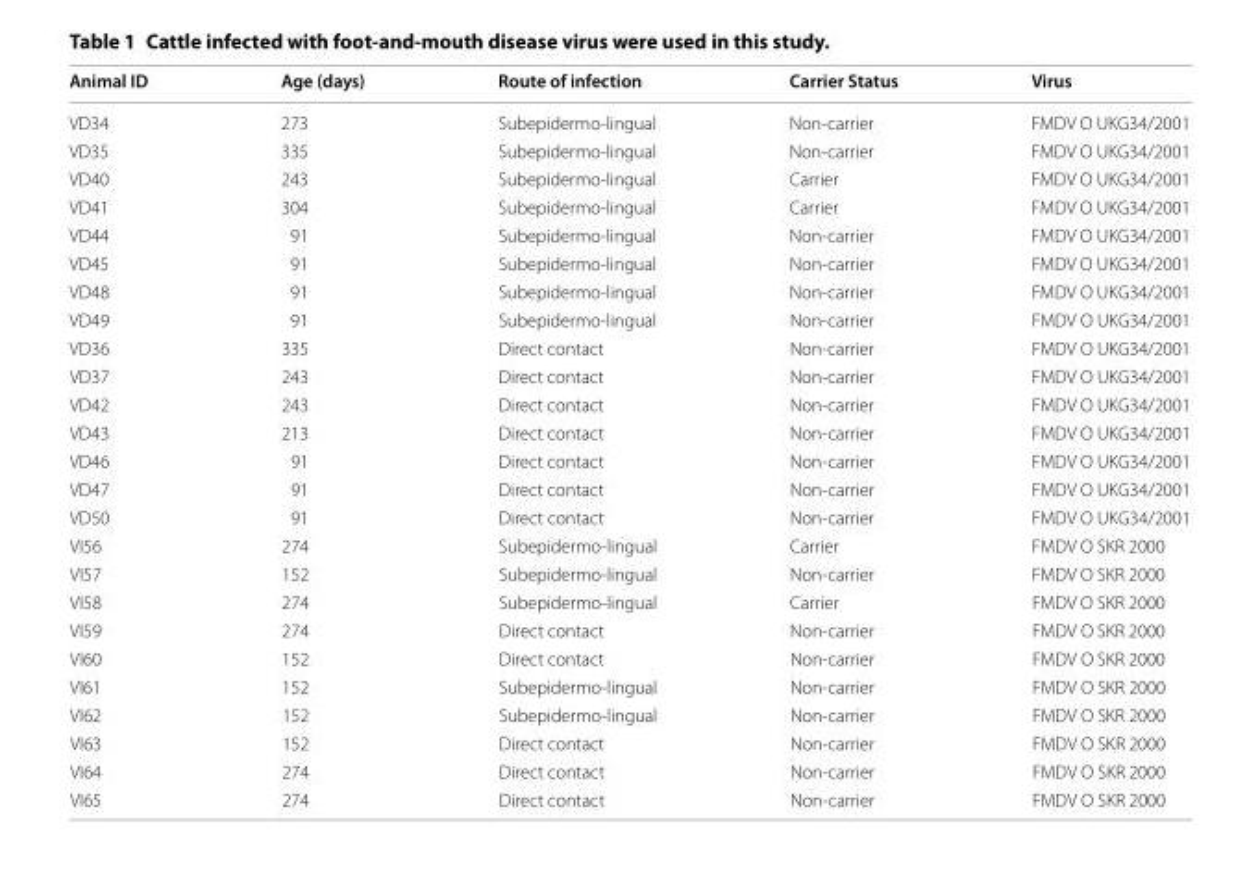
<table><thead><tr><td>Animal ID</td><td>Age (days)</td><td>Route of infection</td><td>Carrier Status</td><td>Virus</td></tr></thead><tbody><tr><td>VD34</td><td>273</td><td>Subepidermo-lingual</td><td>Non-carrier</td><td>FMDV O UKG34/2001</td></tr><tr><td>VD35</td><td>335</td><td>Subepidermo-lingual</td><td>Non-carrier</td><td>FMDV O UKG34/2001</td></tr><tr><td>VD40</td><td>243</td><td>Subepidermo-lingual</td><td>Carrier</td><td>FMDV O UKG34/2001</td></tr><tr><td>VD41</td><td>304</td><td>Subepidermo-lingual</td><td>Carrier</td><td>FMDV O UKG34/2001</td></tr><tr><td>VD44</td><td>91</td><td>Subepidermo-lingual</td><td>Non-carrier</td><td>FMDV O UKG34/2001</td></tr><tr><td>VD45</td><td>91</td><td>Subepidermo-lingual</td><td>Non-carrier</td><td>FMDV O UKG34/2001</td></tr><tr><td>VD48</td><td>91</td><td>Subepidermo-lingual</td><td>Non-carrier</td><td>FMDV O UKG34/2001</td></tr><tr><td>VD49</td><td>91</td><td>Subepidermo-lingual</td><td>Non-carrier</td><td>FMDV O UKG34/2001</td></tr><tr><td>VD36</td><td>335</td><td>Direct contact</td><td>Non-carrier</td><td>FMDV O UKG34/2001</td></tr><tr><td>VD37</td><td>243</td><td>Direct contact</td><td>Non-carrier</td><td>FMDV O UKG34/2001</td></tr><tr><td>VD42</td><td>243</td><td>Direct contact</td><td>Non-carrier</td><td>FMDV O UKG34/2001</td></tr><tr><td>VD43</td><td>213</td><td>Direct contact</td><td>Non-carrier</td><td>FMDV O UKG34/2001</td></tr><tr><td>VD46</td><td>91</td><td>Direct contact</td><td>Non-carrier</td><td>FMDV O UKG34/2001</td></tr><tr><td>VD47</td><td>91</td><td>Direct contact</td><td>Non-carrier</td><td>FMDV O UKG34/2001</td></tr><tr><td>VD50</td><td>91</td><td>Direct contact</td><td>Non-carrier</td><td>FMDV O UKG34/2001</td></tr><tr><td>VI56</td><td>274</td><td>Subepidermo-lingual</td><td>Carrier</td><td>FMDV O SKR 2000</td></tr><tr><td>VI57</td><td>152</td><td>Subepidermo-lingual</td><td>Non-carrier</td><td>FMDV O SKR 2000</td></tr><tr><td>VI58</td><td>274</td><td>Subepidermo-lingual</td><td>Carrier</td><td>FMDV O SKR 2000</td></tr><tr><td>VI59</td><td>274</td><td>Direct contact</td><td>Non-carrier</td><td>FMDV O SKR 2000</td></tr><tr><td>VI60</td><td>152</td><td>Direct contact</td><td>Non-carrier</td><td>FMDV O SKR 2000</td></tr><tr><td>VI61</td><td>152</td><td>Subepidermo-lingual</td><td>Non-carrier</td><td>FMDV O SKR 2000</td></tr><tr><td>VI62</td><td>152</td><td>Subepidermo-lingual</td><td>Non-carrier</td><td>FMDV O SKR 2000</td></tr><tr><td>VI63</td><td>152</td><td>Direct contact</td><td>Non-carrier</td><td>FMDV O SKR 2000</td></tr><tr><td>VI64</td><td>274</td><td>Direct contact</td><td>Non-carrier</td><td>FMDV O SKR 2000</td></tr><tr><td>VI65</td><td>274</td><td>Direct contact</td><td>Non-carrier</td><td>FMDV O SKR 2000</td></tr></tbody></table>